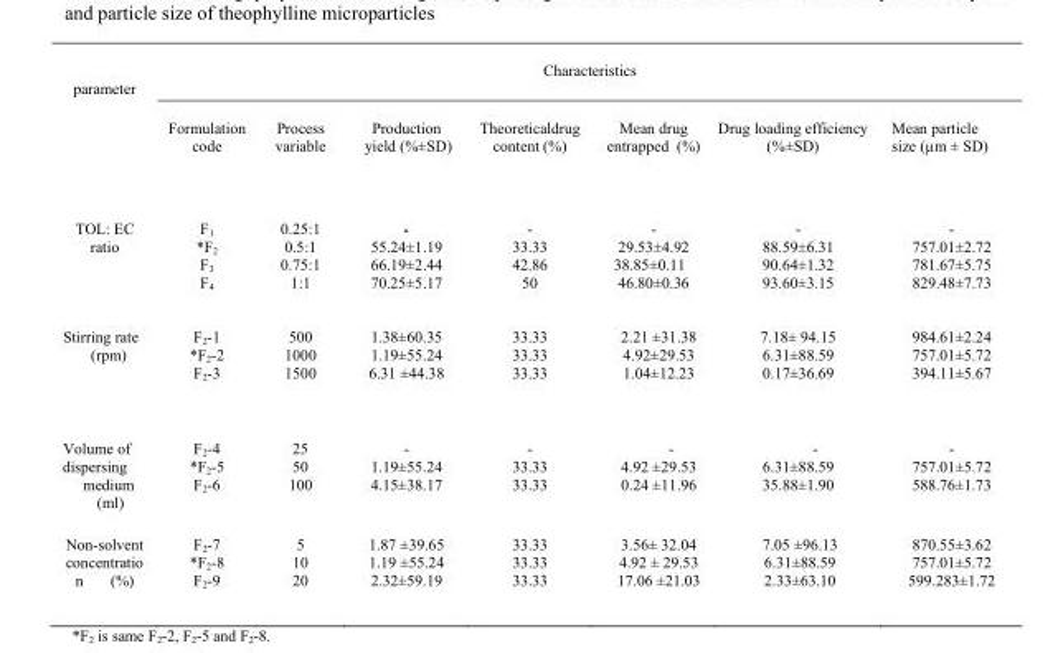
<table><thead><tr><td rowspan="2">parameter</td><td colspan="7">Characteristics</td></tr><tr><td>Formulation code</td><td>Process variable</td><td>Production yield (%±SD)</td><td>Theoreticaldrug content (%)</td><td>Mean drug entrapped (%)</td><td>Drug loading efficiency (%±SD)</td><td>Mean particle size (µm ± SD)</td></tr></thead><tbody><tr><td>TOL: EC ratio</td><td>F<sub>1</sub> *F<sub>2</sub> F<sub>3</sub> F<sub>4</sub></td><td>0.25:1 0.5:1 0.75:1 1:1</td><td>- 55.24±1.19 66.19±2.44 70.25±5.17</td><td>- 33.33 42.86 50</td><td>- 29.53±4.92 38.85±0.11 46.80±0.36</td><td>- 88.59±6.31 90.64±1.32 93.60±3.15</td><td>- 757.01±2.72 781.67±5.75 829.48±7.73</td></tr><tr><td>Stirring rate (rpm)</td><td>F<sub>2</sub>-1 *F<sub>2</sub>-2 F<sub>2</sub>-3</td><td>500 1000 1500</td><td>1.38±60.35 1.19±55.24 6.31 ±44.38</td><td>33.33 33.33 33.33</td><td>2.21 ±31.38 4.92±29.53 1.04±12.23</td><td>7.18± 94.15 6.31±88.59 0.17±36.69</td><td>984.61±2.24 757.01±5.72 394.11±5.67</td></tr><tr><td>Volume of dispersing medium (ml)</td><td>F<sub>2</sub>-4 *F<sub>2</sub>-5 F<sub>2</sub>-6</td><td>25 50 100</td><td>- 1.19±55.24 4.15±38.17</td><td>- 33.33 33.33</td><td>- 4.92 ±29.53 0.24 ±11.96</td><td>- 6.31±88.59 35.88±1.90</td><td>- 757.01±5.72 588.76±1.73</td></tr><tr><td>Non-solvent concentratio n (%)</td><td>F<sub>2</sub>-7 *F<sub>2</sub>-8 F<sub>2</sub>-9</td><td>5 10 20</td><td>1.87 ±39.65 1.19 ±55.24 2.32±59.19</td><td>33.33 33.33 33.33</td><td>3.56± 32.04 4.92 ± 29.53 17.06 ±21.03</td><td>7.05 ±96.13 6.31±88.59 2.33±63.10</td><td>870.55±3.62 757.01±5.72 599.283±1.72</td></tr></tbody></table>